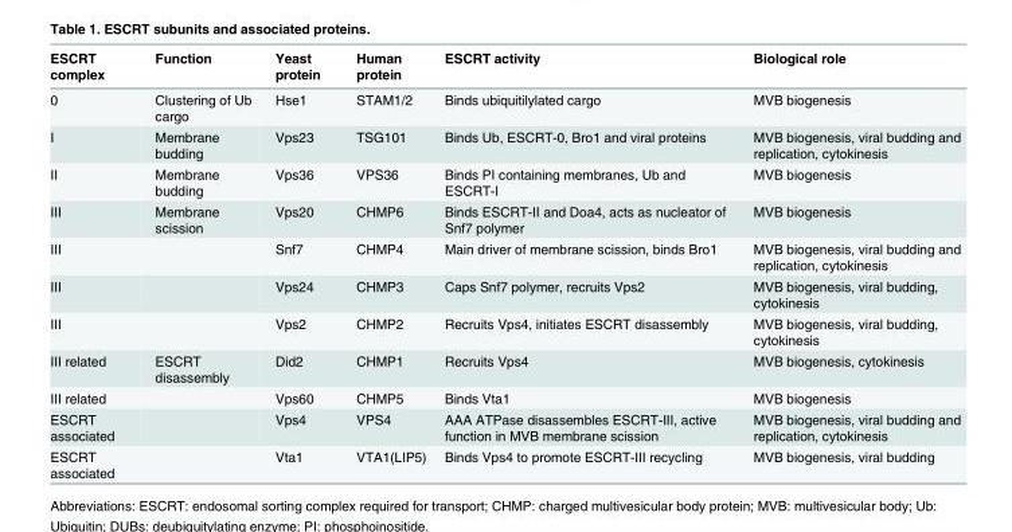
<table><thead><tr><td>ESCRT complex</td><td>Function</td><td>Yeast protein</td><td>Human protein</td><td>ESCRT activity</td><td>Biological role</td></tr></thead><tbody><tr><td>0</td><td>Clustering of Ub cargo</td><td>Hse1</td><td>STAM1/2</td><td>Binds ubiquitilylated cargo</td><td>MVB biogenesis</td></tr><tr><td>I</td><td>Membrane budding</td><td>Vps23</td><td>TSG101</td><td>Binds Ub, ESCRT-0, Bro1 and viral proteins</td><td>MVB biogenesis, viral budding and replication, cytokinesis</td></tr><tr><td>II</td><td>Membrane budding</td><td>Vps36</td><td>VPS36</td><td>Binds PI containing membranes, Ub and ESCRT-I</td><td>MVB biogenesis</td></tr><tr><td>III</td><td>Membrane scission</td><td>Vps20</td><td>CHMP6</td><td>Binds ESCRT-II and Doa4, acts as nucleator of Snf7 polymer</td><td>MVB biogenesis</td></tr><tr><td>III</td><td></td><td>Snf7</td><td>CHMP4</td><td>Main driver of membrane scission, binds Bro1</td><td>MVB biogenesis, viral budding and replication, cytokinesis</td></tr><tr><td>III</td><td></td><td>Vps24</td><td>CHMP3</td><td>Caps Snf7 polymer, recruits Vps2</td><td>MVB biogenesis, viral budding, cytokinesis</td></tr><tr><td>III</td><td></td><td>Vps2</td><td>CHMP2</td><td>Recruits Vps4, initiates ESCRT disassembly</td><td>MVB biogenesis, viral budding, cytokinesis</td></tr><tr><td>III related</td><td>ESCRT disassembly</td><td>Did2</td><td>CHMP1</td><td>Recruits Vps4</td><td>MVB biogenesis, cytokinesis</td></tr><tr><td>III related</td><td></td><td>Vps60</td><td>CHMP5</td><td>Binds Vta1</td><td>MVB biogenesis</td></tr><tr><td>ESCRT associated</td><td></td><td>Vps4</td><td>VPS4</td><td>AAA ATPase disassembles ESCRT-III, active function in MVB membrane scission</td><td>MVB biogenesis, viral budding and replication, cytokinesis</td></tr><tr><td>ESCRT associated</td><td></td><td>Vta1</td><td>VTA1(LIP5)</td><td>Binds Vps4 to promote ESCRT-III recycling</td><td>MVB biogenesis, viral budding</td></tr></tbody></table>